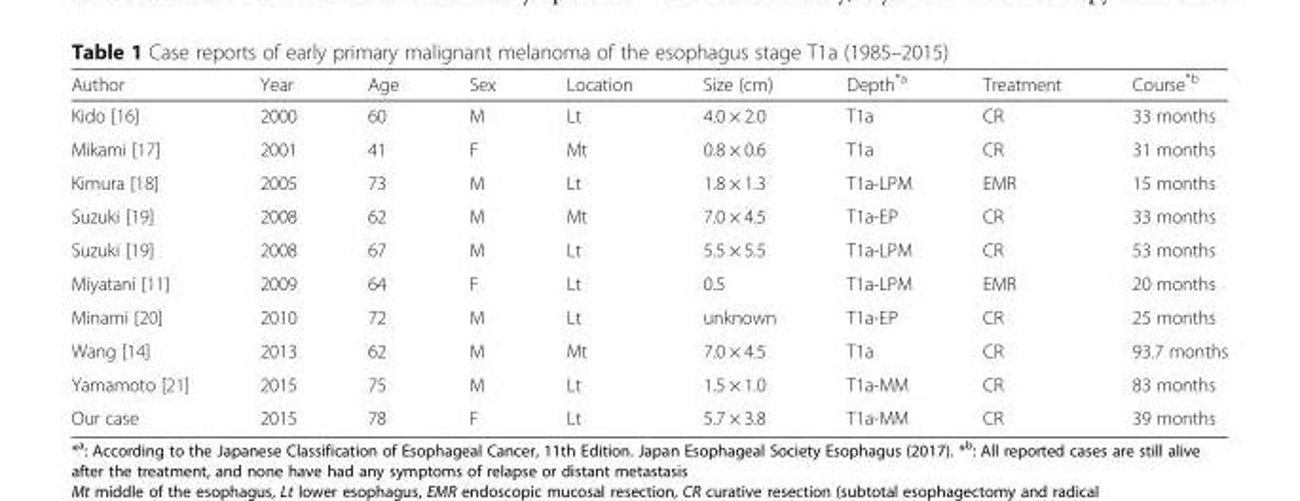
<table><thead><tr><td>Author</td><td>Year</td><td>Age</td><td>Sex</td><td>Location</td><td>Size (cm)</td><td>Depth<sup>*a</sup></td><td>Treatment</td><td>Course<sup>*b</sup></td></tr></thead><tbody><tr><td>Kido [16]</td><td>2000</td><td>60</td><td>M</td><td>Lt</td><td>4.0 × 2.0</td><td>T1a</td><td>CR</td><td>33 months</td></tr><tr><td>Mikami [17]</td><td>2001</td><td>41</td><td>F</td><td>Mt</td><td>0.8 × 0.6</td><td>T1a</td><td>CR</td><td>31 months</td></tr><tr><td>Kimura [18]</td><td>2005</td><td>73</td><td>M</td><td>Lt</td><td>1.8 × 1.3</td><td>T1a-LPM</td><td>EMR</td><td>15 months</td></tr><tr><td>Suzuki [19]</td><td>2008</td><td>62</td><td>M</td><td>Mt</td><td>7.0 × 4.5</td><td>T1a-EP</td><td>CR</td><td>33 months</td></tr><tr><td>Suzuki [19]</td><td>2008</td><td>67</td><td>M</td><td>Lt</td><td>5.5 × 5.5</td><td>T1a-LPM</td><td>CR</td><td>53 months</td></tr><tr><td>Miyatani [11]</td><td>2009</td><td>64</td><td>F</td><td>Lt</td><td>0.5</td><td>T1a-LPM</td><td>EMR</td><td>20 months</td></tr><tr><td>Minami [20]</td><td>2010</td><td>72</td><td>M</td><td>Lt</td><td>unknown</td><td>T1a-EP</td><td>CR</td><td>25 months</td></tr><tr><td>Wang [14]</td><td>2013</td><td>62</td><td>M</td><td>Mt</td><td>7.0 × 4.5</td><td>T1a</td><td>CR</td><td>93.7 months</td></tr><tr><td>Yamamoto [21]</td><td>2015</td><td>75</td><td>M</td><td>Lt</td><td>1.5 × 1.0</td><td>T1a-MM</td><td>CR</td><td>83 months</td></tr><tr><td>Our case</td><td>2015</td><td>78</td><td>F</td><td>Lt</td><td>5.7 × 3.8</td><td>T1a-MM</td><td>CR</td><td>39 months</td></tr></tbody></table>